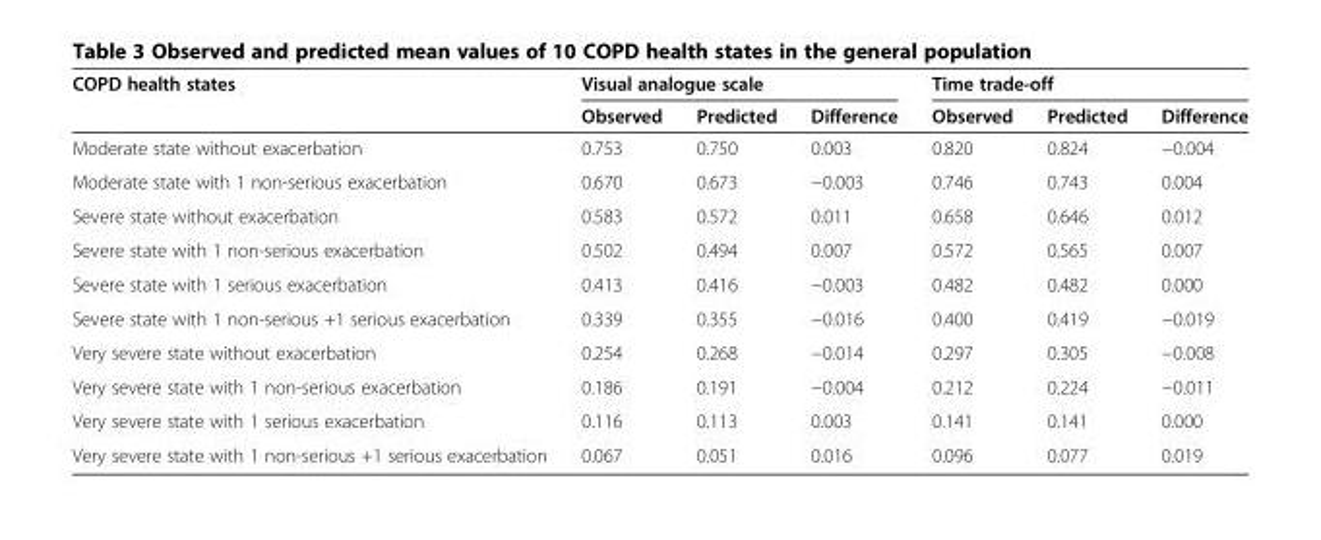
<table><thead><tr><td rowspan="2">COPD health states</td><td colspan="3">Visual analogue scale</td><td colspan="3">Time trade-off</td></tr><tr><td>Observed</td><td>Predicted</td><td>Difference</td><td>Observed</td><td>Predicted</td><td>Difference</td></tr></thead><tbody><tr><td>Moderate state without exacerbation</td><td>0.753</td><td>0.750</td><td>0.003</td><td>0.820</td><td>0.824</td><td>−0.004</td></tr><tr><td>Moderate state with 1 non-serious exacerbation</td><td>0.670</td><td>0.673</td><td>−0.003</td><td>0.746</td><td>0.743</td><td>0.004</td></tr><tr><td>Severe state without exacerbation</td><td>0.583</td><td>0.572</td><td>0.011</td><td>0.658</td><td>0.646</td><td>0.012</td></tr><tr><td>Severe state with 1 non-serious exacerbation</td><td>0.502</td><td>0.494</td><td>0.007</td><td>0.572</td><td>0.565</td><td>0.007</td></tr><tr><td>Severe state with 1 serious exacerbation</td><td>0.413</td><td>0.416</td><td>−0.003</td><td>0.482</td><td>0.482</td><td>0.000</td></tr><tr><td>Severe state with 1 non-serious +1 serious exacerbation</td><td>0.339</td><td>0.355</td><td>−0.016</td><td>0.400</td><td>0.419</td><td>−0.019</td></tr><tr><td>Very severe state without exacerbation</td><td>0.254</td><td>0.268</td><td>−0.014</td><td>0.297</td><td>0.305</td><td>−0.008</td></tr><tr><td>Very severe state with 1 non-serious exacerbation</td><td>0.186</td><td>0.191</td><td>−0.004</td><td>0.212</td><td>0.224</td><td>−0.011</td></tr><tr><td>Very severe state with 1 serious exacerbation</td><td>0.116</td><td>0.113</td><td>0.003</td><td>0.141</td><td>0.141</td><td>0.000</td></tr><tr><td>Very severe state with 1 non-serious +1 serious exacerbation</td><td>0.067</td><td>0.051</td><td>0.016</td><td>0.096</td><td>0.077</td><td>0.019</td></tr></tbody></table>